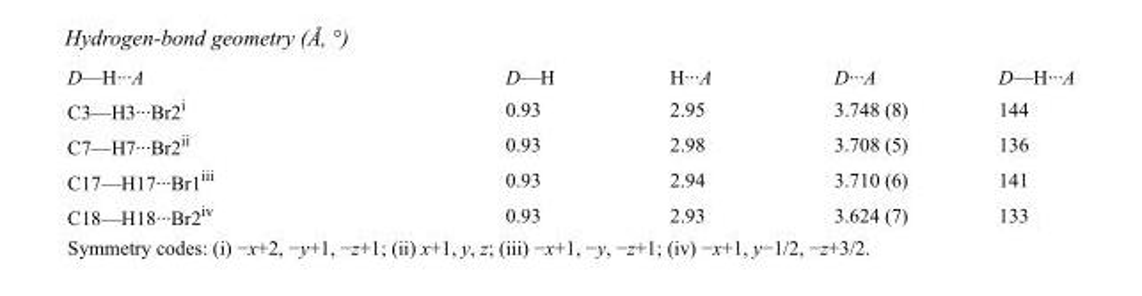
<table><tbody><tr><td>D—H···A</td><td>D—H</td><td>H···A</td><td>D···A</td><td>D—H···A</td></tr><tr><td>C3—H3···Br2<sup>i</sup></td><td>0.93</td><td>2.95</td><td>3.748 (8)</td><td>144</td></tr><tr><td>C7—H7···Br2<sup>ii</sup></td><td>0.93</td><td>2.98</td><td>3.708 (5)</td><td>136</td></tr><tr><td>C17—H17···Br1<sup>iii</sup></td><td>0.93</td><td>2.94</td><td>3.710 (6)</td><td>141</td></tr><tr><td>C18—H18···Br2<sup>iv</sup></td><td>0.93</td><td>2.93</td><td>3.624 (7)</td><td>133</td></tr></tbody></table>